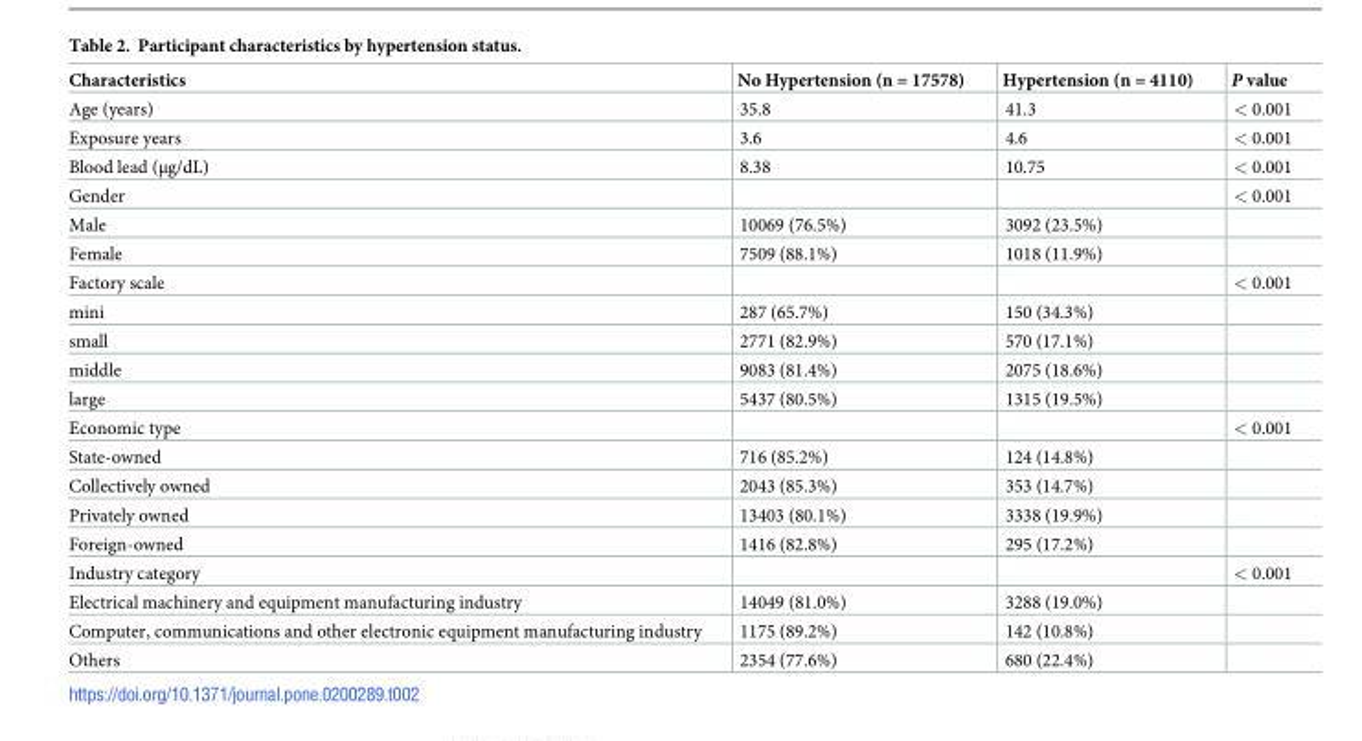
<table><thead><tr><td>Characteristics</td><td>No Hypertension (n = 17578)</td><td>Hypertension (n = 4110)</td><td>P value</td></tr></thead><tbody><tr><td>Age (years)</td><td>35.8</td><td>41.3</td><td>&lt; 0.001</td></tr><tr><td>Exposure years</td><td>3.6</td><td>4.6</td><td>&lt; 0.001</td></tr><tr><td>Blood lead (μg/dL)</td><td>8.38</td><td>10.75</td><td>&lt; 0.001</td></tr><tr><td>Gender</td><td></td><td></td><td>&lt; 0.001</td></tr><tr><td>Male</td><td>10069 (76.5%)</td><td>3092 (23.5%)</td><td></td></tr><tr><td>Female</td><td>7509 (88.1%)</td><td>1018 (11.9%)</td><td></td></tr><tr><td>Factory scale</td><td></td><td></td><td>&lt; 0.001</td></tr><tr><td>mini</td><td>287 (65.7%)</td><td>150 (34.3%)</td><td></td></tr><tr><td>small</td><td>2771 (82.9%)</td><td>570 (17.1%)</td><td></td></tr><tr><td>middle</td><td>9083 (81.4%)</td><td>2075 (18.6%)</td><td></td></tr><tr><td>large</td><td>5437 (80.5%)</td><td>1315 (19.5%)</td><td></td></tr><tr><td>Economic type</td><td></td><td></td><td>&lt; 0.001</td></tr><tr><td>State-owned</td><td>716 (85.2%)</td><td>124 (14.8%)</td><td></td></tr><tr><td>Collectively owned</td><td>2043 (85.3%)</td><td>353 (14.7%)</td><td></td></tr><tr><td>Privately owned</td><td>13403 (80.1%)</td><td>3338 (19.9%)</td><td></td></tr><tr><td>Foreign-owned</td><td>1416 (82.8%)</td><td>295 (17.2%)</td><td></td></tr><tr><td>Industry category</td><td></td><td></td><td>&lt; 0.001</td></tr><tr><td>Electrical machinery and equipment manufacturing industry</td><td>14049 (81.0%)</td><td>3288 (19.0%)</td><td></td></tr><tr><td>Computer, communications and other electronic equipment manufacturing industry</td><td>1175 (89.2%)</td><td>142 (10.8%)</td><td></td></tr><tr><td>Others</td><td>2354 (77.6%)</td><td>680 (22.4%)</td><td></td></tr></tbody></table>